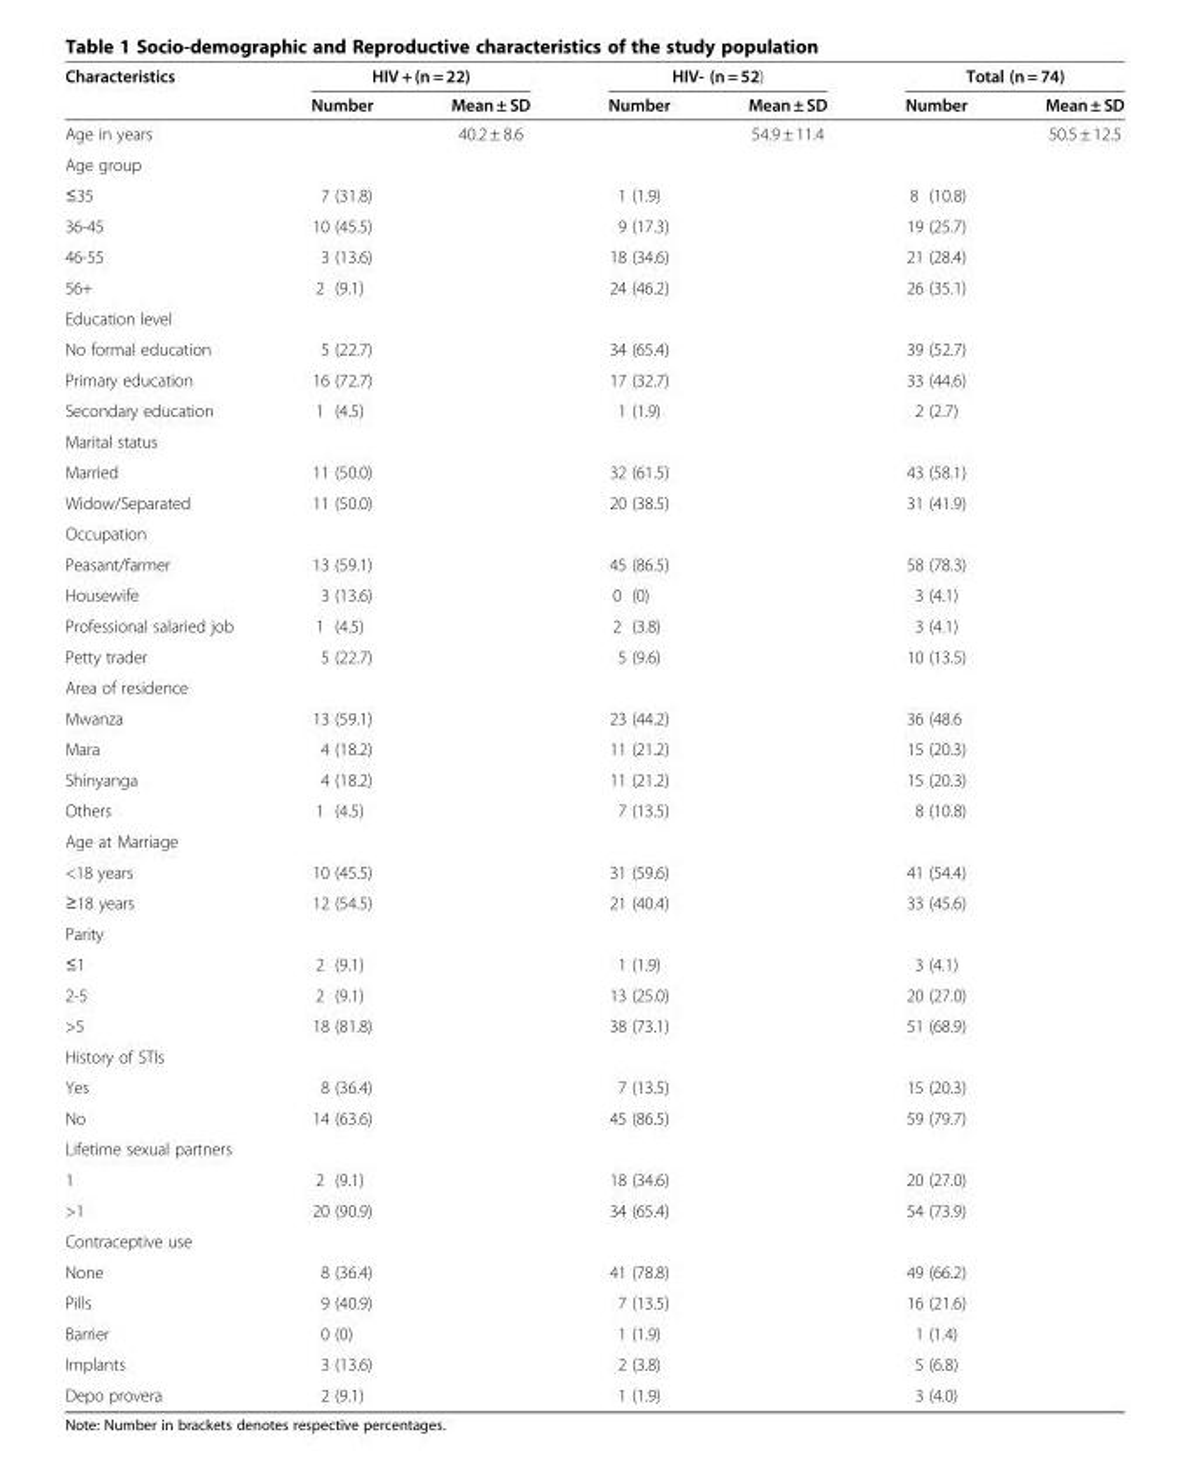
<table><thead><tr><td rowspan="2">Characteristics</td><td colspan="2">HIV + (n = 22)</td><td colspan="2">HIV- (n = 52)</td><td colspan="2">Total (n = 74)</td></tr><tr><td>Number</td><td>Mean ± SD</td><td>Number</td><td>Mean ± SD</td><td>Number</td><td>Mean ± SD</td></tr></thead><tbody><tr><td>Age in years</td><td></td><td>40.2 ± 8.6</td><td></td><td>54.9 ± 11.4</td><td></td><td>50.5 ± 12.5</td></tr><tr><td colspan="7">Age group</td></tr><tr><td>≤35</td><td>7 (31.8)</td><td></td><td>1 (1.9)</td><td></td><td>8 (10.8)</td><td></td></tr><tr><td>36-45</td><td>10 (45.5)</td><td></td><td>9 (17.3)</td><td></td><td>19 (25.7)</td><td></td></tr><tr><td>46-55</td><td>3 (13.6)</td><td></td><td>18 (34.6)</td><td></td><td>21 (28.4)</td><td></td></tr><tr><td>56+</td><td>2 (9.1)</td><td></td><td>24 (46.2)</td><td></td><td>26 (35.1)</td><td></td></tr><tr><td colspan="7">Education level</td></tr><tr><td>No formal education</td><td>5 (22.7)</td><td></td><td>34 (65.4)</td><td></td><td>39 (52.7)</td><td></td></tr><tr><td>Primary education</td><td>16 (72.7)</td><td></td><td>17 (32.7)</td><td></td><td>33 (44.6)</td><td></td></tr><tr><td>Secondary education</td><td>1 (4.5)</td><td></td><td>1 (1.9)</td><td></td><td>2 (2.7)</td><td></td></tr><tr><td colspan="7">Marital status</td></tr><tr><td>Married</td><td>11 (50.0)</td><td></td><td>32 (61.5)</td><td></td><td>43 (58.1)</td><td></td></tr><tr><td>Widow/Separated</td><td>11 (50.0)</td><td></td><td>20 (38.5)</td><td></td><td>31 (41.9)</td><td></td></tr><tr><td colspan="7">Occupation</td></tr><tr><td>Peasant/farmer</td><td>13 (59.1)</td><td></td><td>45 (86.5)</td><td></td><td>58 (78.3)</td><td></td></tr><tr><td>Housewife</td><td>3 (13.6)</td><td></td><td>0 (0)</td><td></td><td>3 (4.1)</td><td></td></tr><tr><td>Professional salaried job</td><td>1 (4.5)</td><td></td><td>2 (3.8)</td><td></td><td>3 (4.1)</td><td></td></tr><tr><td>Petty trader</td><td>5 (22.7)</td><td></td><td>5 (9.6)</td><td></td><td>10 (13.5)</td><td></td></tr><tr><td colspan="7">Area of residence</td></tr><tr><td>Mwanza</td><td>13 (59.1)</td><td></td><td>23 (44.2)</td><td></td><td>36 (48.6</td><td></td></tr><tr><td>Mara</td><td>4 (18.2)</td><td></td><td>11 (21.2)</td><td></td><td>15 (20.3)</td><td></td></tr><tr><td>Shinyanga</td><td>4 (18.2)</td><td></td><td>11 (21.2)</td><td></td><td>15 (20.3)</td><td></td></tr><tr><td>Others</td><td>1 (4.5)</td><td></td><td>7 (13.5)</td><td></td><td>8 (10.8)</td><td></td></tr><tr><td colspan="7">Age at Marriage</td></tr><tr><td>&lt;18 years</td><td>10 (45.5)</td><td></td><td>31 (59.6)</td><td></td><td>41 (54.4)</td><td></td></tr><tr><td>≥18 years</td><td>12 (54.5)</td><td></td><td>21 (40.4)</td><td></td><td>33 (45.6)</td><td></td></tr><tr><td colspan="7">Parity</td></tr><tr><td>≤1</td><td>2 (9.1)</td><td></td><td>1 (1.9)</td><td></td><td>3 (4.1)</td><td></td></tr><tr><td>2-5</td><td>2 (9.1)</td><td></td><td>13 (25.0)</td><td></td><td>20 (27.0)</td><td></td></tr><tr><td>&gt;5</td><td>18 (81.8)</td><td></td><td>38 (73.1)</td><td></td><td>51 (68.9)</td><td></td></tr><tr><td colspan="7">History of STIs</td></tr><tr><td>Yes</td><td>8 (36.4)</td><td></td><td>7 (13.5)</td><td></td><td>15 (20.3)</td><td></td></tr><tr><td>No</td><td>14 (63.6)</td><td></td><td>45 (86.5)</td><td></td><td>59 (79.7)</td><td></td></tr><tr><td colspan="7">Lifetime sexual partners</td></tr><tr><td>1</td><td>2 (9.1)</td><td></td><td>18 (34.6)</td><td></td><td>20 (27.0)</td><td></td></tr><tr><td>&gt;1</td><td>20 (90.9)</td><td></td><td>34 (65.4)</td><td></td><td>54 (73.9)</td><td></td></tr><tr><td colspan="7">Contraceptive use</td></tr><tr><td>None</td><td>8 (36.4)</td><td></td><td>41 (78.8)</td><td></td><td>49 (66.2)</td><td></td></tr><tr><td>Pills</td><td>9 (40.9)</td><td></td><td>7 (13.5)</td><td></td><td>16 (21.6)</td><td></td></tr><tr><td>Barrier</td><td>0 (0)</td><td></td><td>1 (1.9)</td><td></td><td>1 (1.4)</td><td></td></tr><tr><td>Implants</td><td>3 (13.6)</td><td></td><td>2 (3.8)</td><td></td><td>5 (6.8)</td><td></td></tr><tr><td>Depo provera</td><td>2 (9.1)</td><td></td><td>1 (1.9)</td><td></td><td>3 (4.0)</td><td></td></tr></tbody></table>